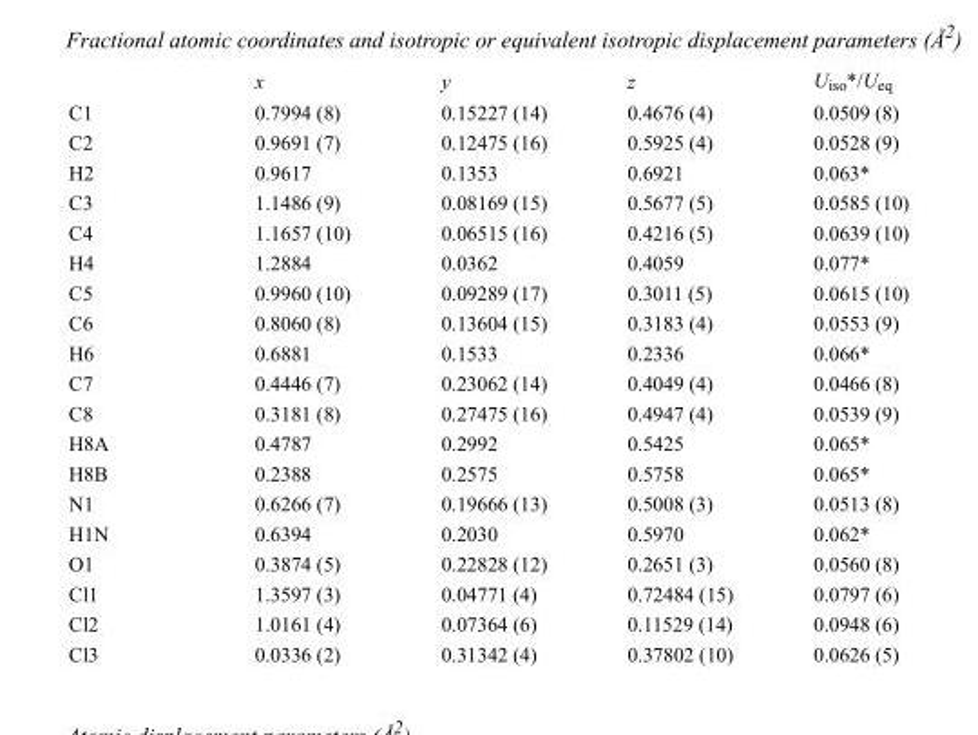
<table><thead><tr><td></td><td>x</td><td>y</td><td>z</td><td>U<sub>iso</sub>*/U<sub>eq</sub></td></tr></thead><tbody><tr><td>C1</td><td>0.7994 (8)</td><td>0.15227 (14)</td><td>0.4676 (4)</td><td>0.0509 (8)</td></tr><tr><td>C2</td><td>0.9691 (7)</td><td>0.12475 (16)</td><td>0.5925 (4)</td><td>0.0528 (9)</td></tr><tr><td>H2</td><td>0.9617</td><td>0.1353</td><td>0.6921</td><td>0.063*</td></tr><tr><td>C3</td><td>1.1486 (9)</td><td>0.08169 (15)</td><td>0.5677 (5)</td><td>0.0585 (10)</td></tr><tr><td>C4</td><td>1.1657 (10)</td><td>0.06515 (16)</td><td>0.4216 (5)</td><td>0.0639 (10)</td></tr><tr><td>H4</td><td>1.2884</td><td>0.0362</td><td>0.4059</td><td>0.077*</td></tr><tr><td>C5</td><td>0.9960 (10)</td><td>0.09289 (17)</td><td>0.3011 (5)</td><td>0.0615 (10)</td></tr><tr><td>C6</td><td>0.8060 (8)</td><td>0.13604 (15)</td><td>0.3183 (4)</td><td>0.0553 (9)</td></tr><tr><td>H6</td><td>0.6881</td><td>0.1533</td><td>0.2336</td><td>0.066*</td></tr><tr><td>C7</td><td>0.4446 (7)</td><td>0.23062 (14)</td><td>0.4049 (4)</td><td>0.0466 (8)</td></tr><tr><td>C8</td><td>0.3181 (8)</td><td>0.27475 (16)</td><td>0.4947 (4)</td><td>0.0539 (9)</td></tr><tr><td>H8A</td><td>0.4787</td><td>0.2992</td><td>0.5425</td><td>0.065*</td></tr><tr><td>H8B</td><td>0.2388</td><td>0.2575</td><td>0.5758</td><td>0.065*</td></tr><tr><td>N1</td><td>0.6266 (7)</td><td>0.19666 (13)</td><td>0.5008 (3)</td><td>0.0513 (8)</td></tr><tr><td>H1N</td><td>0.6394</td><td>0.2030</td><td>0.5970</td><td>0.062*</td></tr><tr><td>O1</td><td>0.3874 (5)</td><td>0.22828 (12)</td><td>0.2651 (3)</td><td>0.0560 (8)</td></tr><tr><td>Cl1</td><td>1.3597 (3)</td><td>0.04771 (4)</td><td>0.72484 (15)</td><td>0.0797 (6)</td></tr><tr><td>Cl2</td><td>1.0161 (4)</td><td>0.07364 (6)</td><td>0.11529 (14)</td><td>0.0948 (6)</td></tr><tr><td>Cl3</td><td>0.0336 (2)</td><td>0.31342 (4)</td><td>0.37802 (10)</td><td>0.0626 (5)</td></tr></tbody></table>